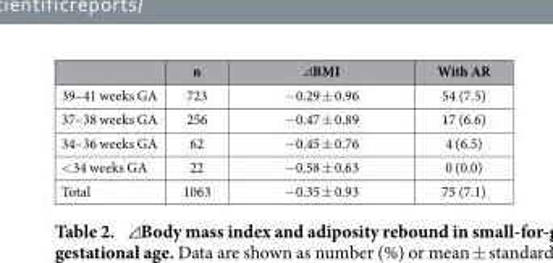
<table><thead><tr><td></td><td>n</td><td>⊿BMI</td><td>With AR</td></tr></thead><tbody><tr><td>39–41 weeks GA</td><td>723</td><td>− 0.29 ± 0.96</td><td>54 (7.5)</td></tr><tr><td>37–38 weeks GA</td><td>256</td><td>− 0.47 ± 0.89</td><td>17 (6.6)</td></tr><tr><td>34–36 weeks GA</td><td>62</td><td>− 0.45 ± 0.76</td><td>4 (6.5)</td></tr><tr><td>&lt; 34 weeks GA</td><td>22</td><td>− 0.58 ± 0.63</td><td>0 (0.0)</td></tr><tr><td>Total</td><td>1063</td><td>− 0.35 ± 0.93</td><td>75 (7.1)</td></tr></tbody></table>